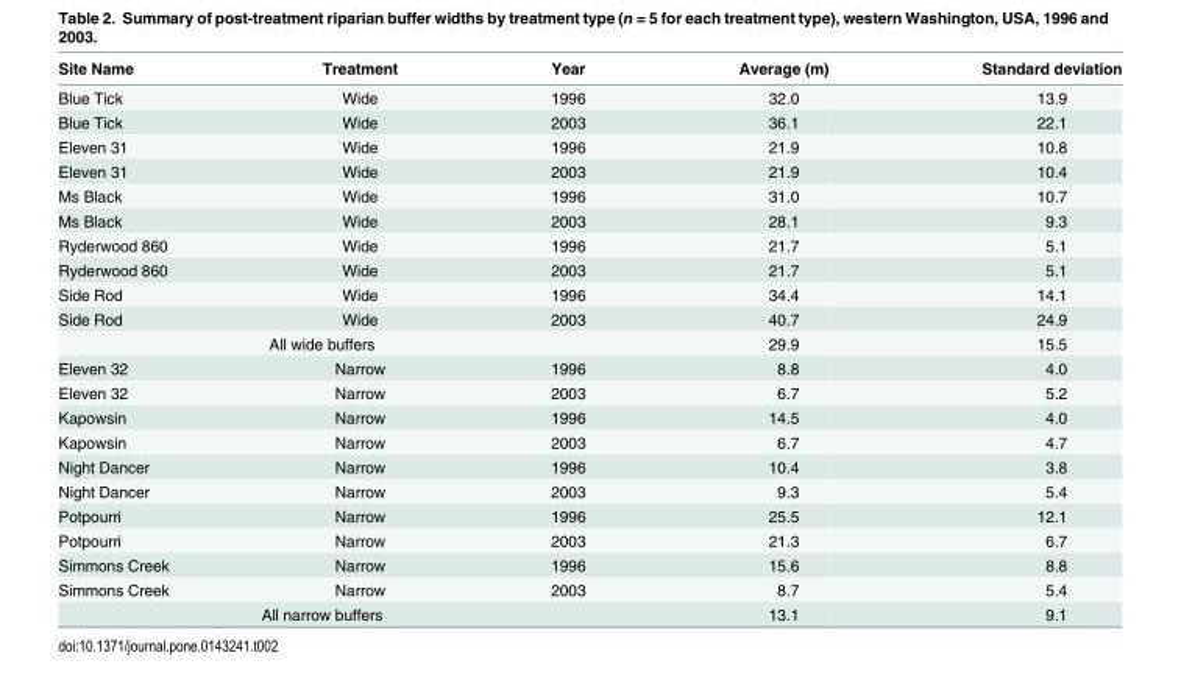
<table><thead><tr><td>Site Name</td><td>Treatment</td><td>Year</td><td>Average (m)</td><td>Standard deviation</td></tr></thead><tbody><tr><td>Blue Tick</td><td>Wide</td><td>1996</td><td>32.0</td><td>13.9</td></tr><tr><td>Blue Tick</td><td>Wide</td><td>2003</td><td>36.1</td><td>22.1</td></tr><tr><td>Eleven 31</td><td>Wide</td><td>1996</td><td>21.9</td><td>10.8</td></tr><tr><td>Eleven 31</td><td>Wide</td><td>2003</td><td>21.9</td><td>10.4</td></tr><tr><td>Ms Black</td><td>Wide</td><td>1996</td><td>31.0</td><td>10.7</td></tr><tr><td>Ms Black</td><td>Wide</td><td>2003</td><td>28.1</td><td>9.3</td></tr><tr><td>Ryderwood 860</td><td>Wide</td><td>1996</td><td>21.7</td><td>5.1</td></tr><tr><td>Ryderwood 860</td><td>Wide</td><td>2003</td><td>21.7</td><td>5.1</td></tr><tr><td>Side Rod</td><td>Wide</td><td>1996</td><td>34.4</td><td>14.1</td></tr><tr><td>Side Rod</td><td>Wide</td><td>2003</td><td>40.7</td><td>24.9</td></tr><tr><td colspan="3">All wide buffers</td><td>29.9</td><td>15.5</td></tr><tr><td>Eleven 32</td><td>Narrow</td><td>1996</td><td>8.8</td><td>4.0</td></tr><tr><td>Eleven 32</td><td>Narrow</td><td>2003</td><td>6.7</td><td>5.2</td></tr><tr><td>Kapowsin</td><td>Narrow</td><td>1996</td><td>14.5</td><td>4.0</td></tr><tr><td>Kapowsin</td><td>Narrow</td><td>2003</td><td>6.7</td><td>4.7</td></tr><tr><td>Night Dancer</td><td>Narrow</td><td>1996</td><td>10.4</td><td>3.8</td></tr><tr><td>Night Dancer</td><td>Narrow</td><td>2003</td><td>9.3</td><td>5.4</td></tr><tr><td>Potpourri</td><td>Narrow</td><td>1996</td><td>25.5</td><td>12.1</td></tr><tr><td>Potpourri</td><td>Narrow</td><td>2003</td><td>21.3</td><td>6.7</td></tr><tr><td>Simmons Creek</td><td>Narrow</td><td>1996</td><td>15.6</td><td>8.8</td></tr><tr><td>Simmons Creek</td><td>Narrow</td><td>2003</td><td>8.7</td><td>5.4</td></tr><tr><td colspan="3">All narrow buffers</td><td>13.1</td><td>9.1</td></tr></tbody></table>